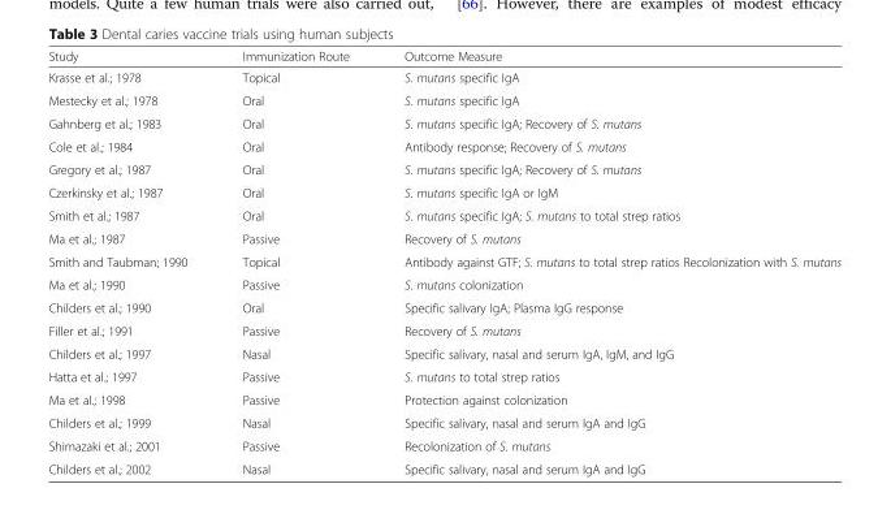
<table><thead><tr><td>Study</td><td>Immunization Route</td><td>Outcome Measure</td></tr></thead><tbody><tr><td>Krasse et al.; 1978</td><td>Topical</td><td>S. mutans specific IgA</td></tr><tr><td>Mestecky et al.; 1978</td><td>Oral</td><td>S. mutans specific IgA</td></tr><tr><td>Gahnberg et al.; 1983</td><td>Oral</td><td>S. mutans specific IgA; Recovery of S. mutans</td></tr><tr><td>Cole et al.; 1984</td><td>Oral</td><td>Antibody response; Recovery of S. mutans</td></tr><tr><td>Gregory et al.; 1987</td><td>Oral</td><td>S. mutans specific IgA; Recovery of S. mutans</td></tr><tr><td>Czerkinsky et al.; 1987</td><td>Oral</td><td>S. mutans specific IgA or IgM</td></tr><tr><td>Smith et al.; 1987</td><td>Oral</td><td>S. mutans specific IgA; S. mutans to total strep ratios</td></tr><tr><td>Ma et al.; 1987</td><td>Passive</td><td>Recovery of S. mutans</td></tr><tr><td>Smith and Taubman; 1990</td><td>Topical</td><td>Antibody against GTF; S. mutans to total strep ratios Recolonization with S. mutans</td></tr><tr><td>Ma et al.; 1990</td><td>Passive</td><td>S. mutans colonization</td></tr><tr><td>Childers et al.; 1990</td><td>Oral</td><td>Specific salivary IgA; Plasma IgG response</td></tr><tr><td>Filler et al.; 1991</td><td>Passive</td><td>Recovery of S. mutans</td></tr><tr><td>Childers et al.; 1997</td><td>Nasal</td><td>Specific salivary, nasal and serum IgA, IgM, and IgG</td></tr><tr><td>Hatta et al.; 1997</td><td>Passive</td><td>S. mutans to total strep ratios</td></tr><tr><td>Ma et al.; 1998</td><td>Passive</td><td>Protection against colonization</td></tr><tr><td>Childers et al.; 1999</td><td>Nasal</td><td>Specific salivary, nasal and serum IgA and IgG</td></tr><tr><td>Shimazaki et al.; 2001</td><td>Passive</td><td>Recolonization of S. mutans</td></tr><tr><td>Childers et al.; 2002</td><td>Nasal</td><td>Specific salivary, nasal and serum IgA and IgG</td></tr></tbody></table>